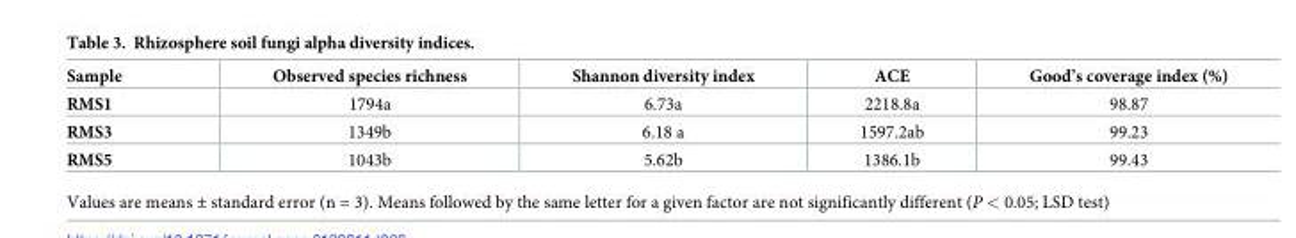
<table><thead><tr><td>Sample</td><td>Observed species richness</td><td>Shannon diversity index</td><td>ACE</td><td>Good’s coverage index (%)</td></tr></thead><tbody><tr><td>RMS1</td><td>1794a</td><td>6.73a</td><td>2218.8a</td><td>98.87</td></tr><tr><td>RMS3</td><td>1349b</td><td>6.18 a</td><td>1597.2ab</td><td>99.23</td></tr><tr><td>RMS5</td><td>1043b</td><td>5.62b</td><td>1386.1b</td><td>99.43</td></tr></tbody></table>